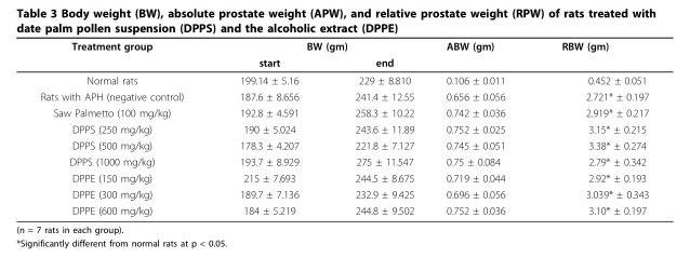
<table><thead><tr><td rowspan="2">Treatment group</td><td colspan="2">BW (gm)</td><td rowspan="2">ABW (gm)</td><td rowspan="2">RBW (gm)</td></tr><tr><td>start</td><td>end</td></tr></thead><tbody><tr><td>Normal rats</td><td>199.14 ± 5.16</td><td>229 ± 8.810</td><td>0.106 ± 0.011</td><td>0.452 ± 0.051</td></tr><tr><td>Rats with APH (negative control)</td><td>187.6 ± 8.656</td><td>241.4 ± 12.55</td><td>0.656 ± 0.056</td><td>2.721* ± 0.197</td></tr><tr><td>Saw Palmetto (100 mg/kg)</td><td>192.8 ± 4.591</td><td>258.3 ± 10.22</td><td>0.742 ± 0.036</td><td>2.919* ± 0.217</td></tr><tr><td>DPPS (250 mg/kg)</td><td>190 ± 5.024</td><td>243.6 ± 11.89</td><td>0.752 ± 0.025</td><td>3.15* ± 0.215</td></tr><tr><td>DPPS (500 mg/kg)</td><td>178.3 ± 4.207</td><td>221.8 ± 7.127</td><td>0.745 ± 0.051</td><td>3.38* ± 0.274</td></tr><tr><td>DPPS (1000 mg/kg)</td><td>193.7 ± 8.929</td><td>275 ± 11.547</td><td>0.75 ± 0.084</td><td>2.79* ± 0.342</td></tr><tr><td>DPPE (150 mg/kg)</td><td>215 ± 7.693</td><td>244.5 ± 8.675</td><td>0.719 ± 0.044</td><td>2.92* ± 0.193</td></tr><tr><td>DPPE (300 mg/kg)</td><td>189.7 ± 7.136</td><td>232.9 ± 9.425</td><td>0.696 ± 0.056</td><td>3.039* ± 0.343</td></tr><tr><td>DPPE (600 mg/kg)</td><td>184 ± 5.219</td><td>244.8 ± 9.502</td><td>0.752 ± 0.036</td><td>3.10* ± 0.197</td></tr></tbody></table>